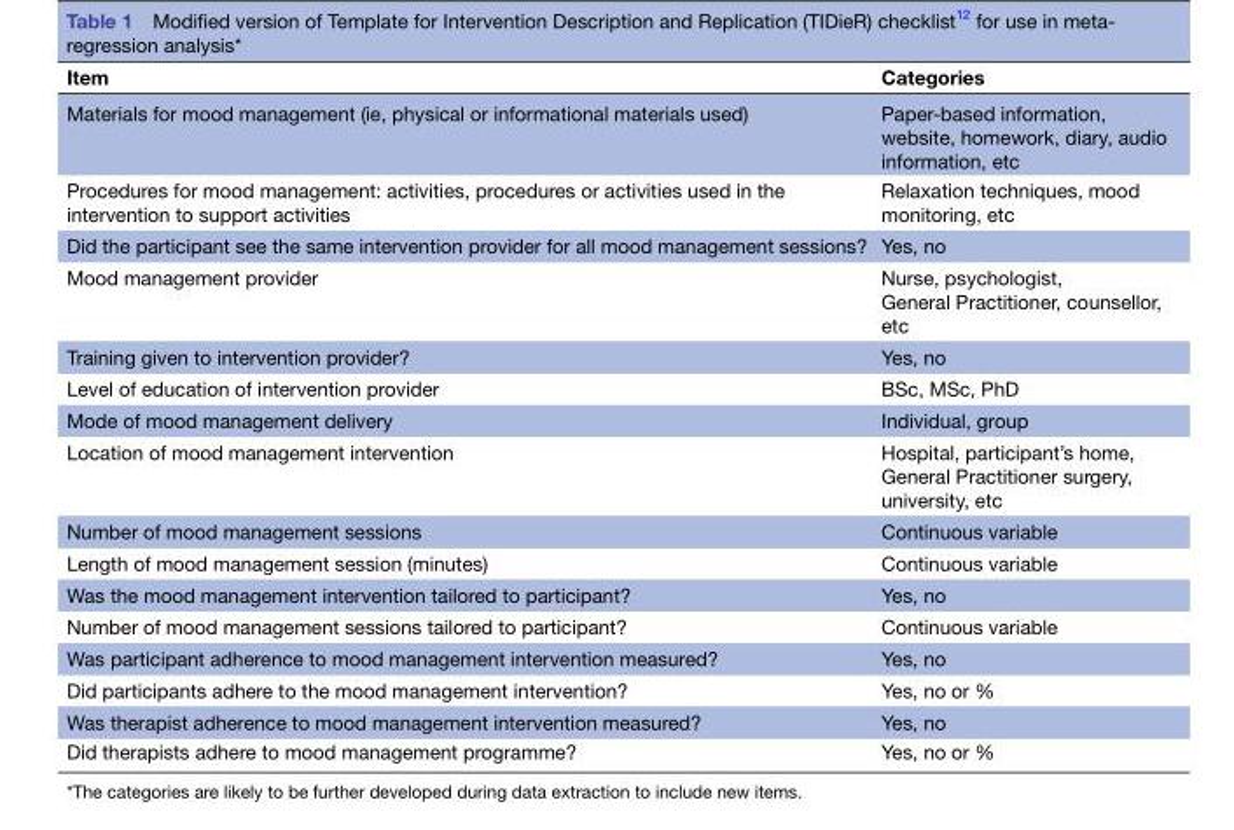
<table><thead><tr><td>Item</td><td>Categories</td></tr></thead><tbody><tr><td>Materials for mood management (ie, physical or informational materials used)</td><td>Paper-based information, website, homework, diary, audio information, etc</td></tr><tr><td>Procedures for mood management: activities, procedures or activities used in the intervention to support activities</td><td>Relaxation techniques, mood monitoring, etc</td></tr><tr><td>Did the participant see the same intervention provider for all mood management sessions?</td><td>Yes, no</td></tr><tr><td>Mood management provider</td><td>Nurse, psychologist, General Practitioner, counsellor, etc</td></tr><tr><td>Training given to intervention provider?</td><td>Yes, no</td></tr><tr><td>Level of education of intervention provider</td><td>BSc, MSc, PhD</td></tr><tr><td>Mode of mood management delivery</td><td>Individual, group</td></tr><tr><td>Location of mood management intervention</td><td>Hospital, participant’s home, General Practitioner surgery, university, etc</td></tr><tr><td>Number of mood management sessions</td><td>Continuous variable</td></tr><tr><td>Length of mood management session (minutes)</td><td>Continuous variable</td></tr><tr><td>Was the mood management intervention tailored to participant?</td><td>Yes, no</td></tr><tr><td>Number of mood management sessions tailored to participant?</td><td>Continuous variable</td></tr><tr><td>Was participant adherence to mood management intervention measured?</td><td>Yes, no</td></tr><tr><td>Did participants adhere to the mood management intervention?</td><td>Yes, no or %</td></tr><tr><td>Was therapist adherence to mood management intervention measured?</td><td>Yes, no</td></tr><tr><td>Did therapists adhere to mood management programme?</td><td>Yes, no or %</td></tr></tbody></table>